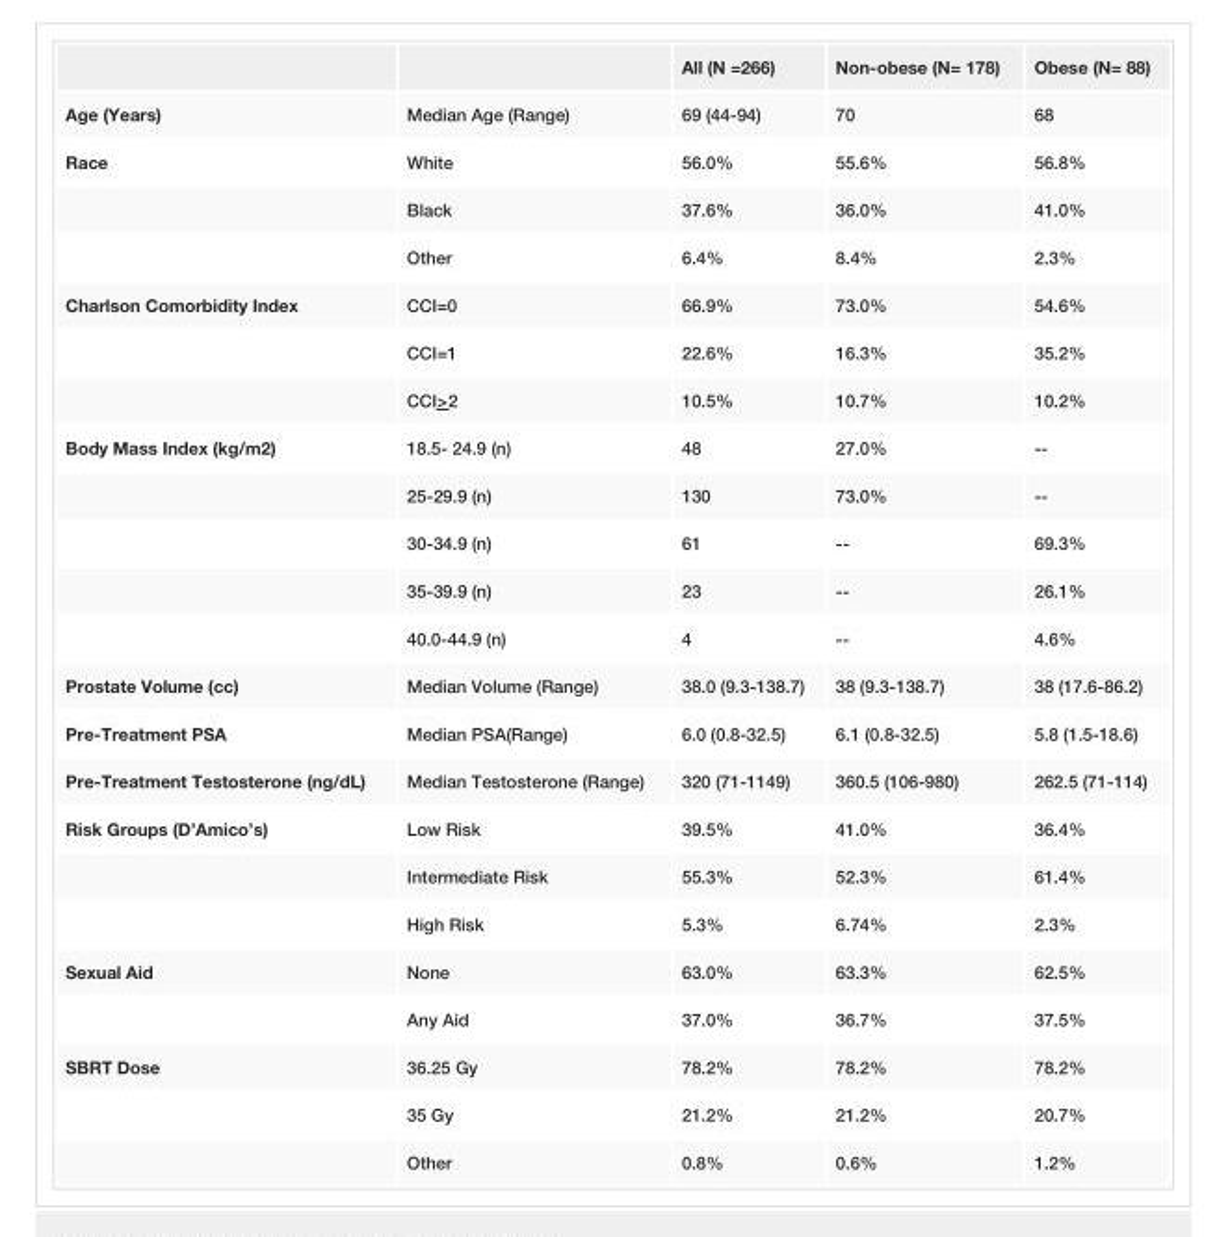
<table><thead><tr><td></td><td></td><td>All (N =266)</td><td>Non-obese (N= 178)</td><td>Obese (N= 88)</td></tr></thead><tbody><tr><td>Age (Years)</td><td>Median Age (Range)</td><td>69 (44-94)</td><td>70</td><td>68</td></tr><tr><td rowspan="3">Race</td><td>White</td><td>56.0%</td><td>55.6%</td><td>56.8%</td></tr><tr><td>Black</td><td>37.6%</td><td>36.0%</td><td>41.0%</td></tr><tr><td>Other</td><td>6.4%</td><td>8.4%</td><td>2.3%</td></tr><tr><td rowspan="3">Charlson Comorbidity Index</td><td>CCI=0</td><td>66.9%</td><td>73.0%</td><td>54.6%</td></tr><tr><td>CCI=1</td><td>22.6%</td><td>16.3%</td><td>35.2%</td></tr><tr><td>CCI&gt;2</td><td>10.5%</td><td>10.7%</td><td>10.2%</td></tr><tr><td rowspan="5">Body Mass Index (kg/m2)</td><td>18.5- 24.9 (n)</td><td>48</td><td>27.0%</td><td>--</td></tr><tr><td>25-29.9 (n)</td><td>130</td><td>73.0%</td><td>--</td></tr><tr><td>30-34.9 (n)</td><td>61</td><td>--</td><td>69.3%</td></tr><tr><td>35-39.9 (n)</td><td>23</td><td>--</td><td>26.1%</td></tr><tr><td>40.0-44.9 (n)</td><td>4</td><td>--</td><td>4.6%</td></tr><tr><td>Prostate Volume (cc)</td><td>Median Volume (Range)</td><td>38.0 (9.3-138.7)</td><td>38 (9.3-138.7)</td><td>38 (17.6-86.2)</td></tr><tr><td>Pre-Treatment PSA</td><td>Median PSA(Range)</td><td>6.0 (0.8-32.5)</td><td>6.1 (0.8-32.5)</td><td>5.8 (1.5-18.6)</td></tr><tr><td>Pre-Treatment Testosterone (ng/dL)</td><td>Median Testosterone (Range)</td><td>320 (71-1149)</td><td>360.5 (106-980)</td><td>262.5 (71-114)</td></tr><tr><td rowspan="3">Risk Groups (D’Amico’s)</td><td>Low Risk</td><td>39.5%</td><td>41.0%</td><td>36.4%</td></tr><tr><td>Intermediate Risk</td><td>55.3%</td><td>52.3%</td><td>61.4%</td></tr><tr><td>High Risk</td><td>5.3%</td><td>6.74%</td><td>2.3%</td></tr><tr><td rowspan="2">Sexual Aid</td><td>None</td><td>63.0%</td><td>63.3%</td><td>62.5%</td></tr><tr><td>Any Aid</td><td>37.0%</td><td>36.7%</td><td>37.5%</td></tr><tr><td rowspan="3">SBRT Dose</td><td>36.25 Gy</td><td>78.2%</td><td>78.2%</td><td>78.2%</td></tr><tr><td>35 Gy</td><td>21.2%</td><td>21.2%</td><td>20.7%</td></tr><tr><td>Other</td><td>0.8%</td><td>0.6%</td><td>1.2%</td></tr></tbody></table>